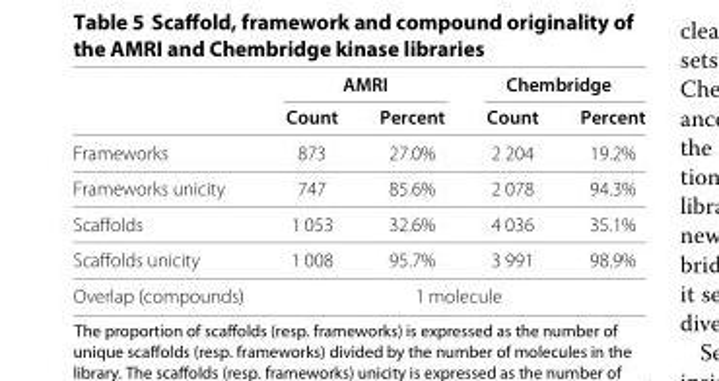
<table><thead><tr><td rowspan="2"></td><td colspan="2">AMRI</td><td colspan="2">Chembridge</td></tr><tr><td>Count</td><td>Percent</td><td>Count</td><td>Percent</td></tr></thead><tbody><tr><td>Frameworks</td><td>873</td><td>27.0%</td><td>2 204</td><td>19.2%</td></tr><tr><td>Frameworks unicity</td><td>747</td><td>85.6%</td><td>2 078</td><td>94.3%</td></tr><tr><td>Scaffolds</td><td>1 053</td><td>32.6%</td><td>4 036</td><td>35.1%</td></tr><tr><td>Scaffolds unicity</td><td>1 008</td><td>95.7%</td><td>3 991</td><td>98.9%</td></tr><tr><td>Overlap (compounds)</td><td colspan="4">1 molecule</td></tr></tbody></table>